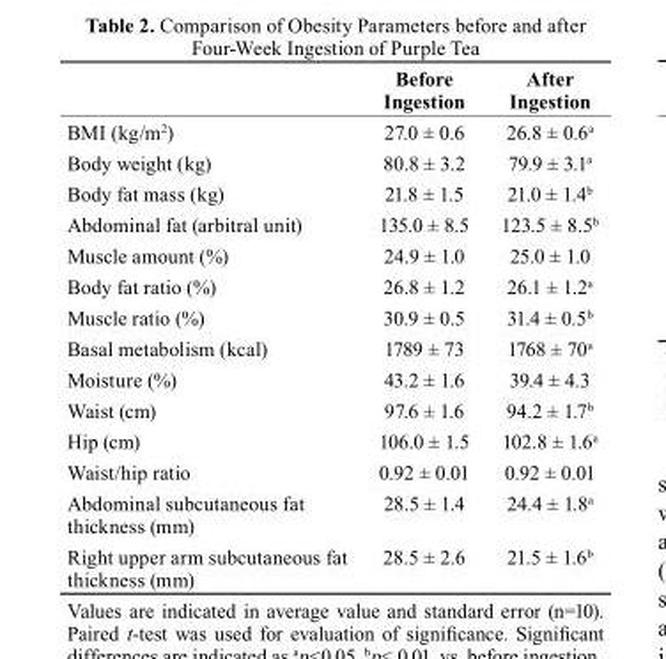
<table><thead><tr><td></td><td>before Ingestion</td><td>After Ingestion</td></tr></thead><tbody><tr><td>BMI (kg/m<sup>2</sup>)</td><td>27.0 ± 0.6</td><td>26.8 ± 0.6<sup>a</sup></td></tr><tr><td>Body weight (kg)</td><td>80.8 ± 3.2</td><td>79.9 ± 3.1<sup>a</sup></td></tr><tr><td>Body fat mass (kg)</td><td>21.8 ± 1.5</td><td>21.0 ± 1.4<sup>b</sup></td></tr><tr><td>Abdominal fat (arbitral unit)</td><td>135.0 ± 8.5</td><td>123.5 ± 8.5<sup>b</sup></td></tr><tr><td>Muscle amount (%)</td><td>24.9 ± 1.0</td><td>25.0 ± 1.0</td></tr><tr><td>Body fat ratio (%)</td><td>26.8 ± 1.2</td><td>26.1 ± 1.2<sup>a</sup></td></tr><tr><td>Muscle ratio (%)</td><td>30.9 ± 0.5</td><td>31.4 ± 0.5<sup>b</sup></td></tr><tr><td>Basal metabolism (kcal)</td><td>1789 ± 73</td><td>1768 ± 70<sup>a</sup></td></tr><tr><td>Moisture (%)</td><td>43.2 ± 1.6</td><td>39.4 ± 4.3</td></tr><tr><td>Waist (cm)</td><td>97.6 ± 1.6</td><td>94.2 ± 1.7<sup>b</sup></td></tr><tr><td>Hip (cm)</td><td>106.0 ± 1.5</td><td>102.8 ± 1.6<sup>a</sup></td></tr><tr><td>Waist/hip ratio</td><td>0.92 ± 0.01</td><td>0.92 ± 0.01</td></tr><tr><td>Abdominal subcutaneous fat thickness (mm)</td><td>28.5 ± 1.4</td><td>24.4 ± 1.8<sup>a</sup></td></tr><tr><td>Right upper arm subcutaneous fat thickness (mm)</td><td>28.5 ± 2.6</td><td>21.5 ± 1.6<sup>b</sup></td></tr></tbody></table>